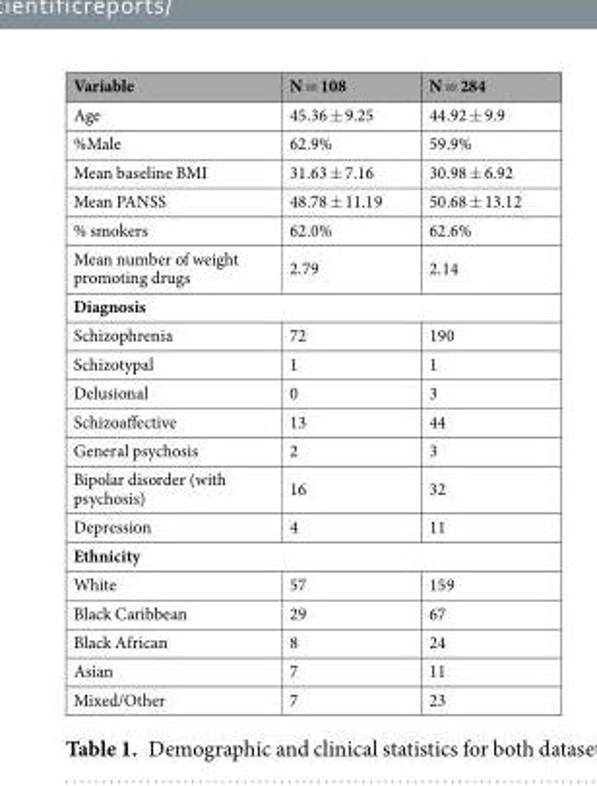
<table><thead><tr><td>Variable</td><td>N = 108</td><td>N = 284</td></tr></thead><tbody><tr><td>Age</td><td>45.36 ± 9.25</td><td>44.92 ± 9.9</td></tr><tr><td>%Male</td><td>62.9%</td><td>59.9%</td></tr><tr><td>Mean baseline BMI</td><td>31.63 ± 7.16</td><td>30.98 ± 6.92</td></tr><tr><td>Mean PANSS</td><td>48.78 ± 11.19</td><td>50.68 ± 13.12</td></tr><tr><td>% smokers</td><td>62.0%</td><td>62.6%</td></tr><tr><td>Mean number of weight promoting drugs</td><td>2.79</td><td>2.14</td></tr><tr><td colspan="3">Diagnosis</td></tr><tr><td>Schizophrenia</td><td>72</td><td>190</td></tr><tr><td>Schizotypal</td><td>1</td><td>1</td></tr><tr><td>Delusional</td><td>0</td><td>3</td></tr><tr><td>Schizoaffective</td><td>13</td><td>44</td></tr><tr><td>General psychosis</td><td>2</td><td>3</td></tr><tr><td>Bipolar disorder (with psychosis)</td><td>16</td><td>32</td></tr><tr><td>Depression</td><td>4</td><td>11</td></tr><tr><td colspan="3">Ethnicity</td></tr><tr><td>White</td><td>57</td><td>159</td></tr><tr><td>Black Caribbean</td><td>29</td><td>67</td></tr><tr><td>Black African</td><td>8</td><td>24</td></tr><tr><td>Asian</td><td>7</td><td>11</td></tr><tr><td>Mixed/Other</td><td>7</td><td>23</td></tr></tbody></table>